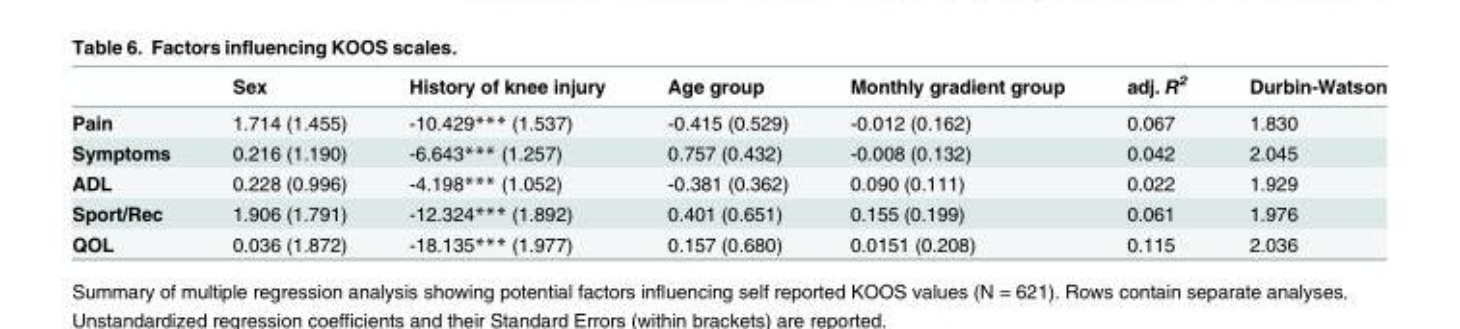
<table><thead><tr><td></td><td>Sex</td><td>History of knee injury</td><td>Age group</td><td>Monthly gradient group</td><td>adj. R<sup>2</sup></td><td>Durbin-Watson</td></tr></thead><tbody><tr><td>Pain</td><td>1.714 (1.455)</td><td>-10.429*** (1.537)</td><td>-0.415 (0.529)</td><td>-0.012 (0.162)</td><td>0.067</td><td>1.830</td></tr><tr><td>Symptoms</td><td>0.216 (1.190)</td><td>-6.643*** (1.257)</td><td>0.757 (0.432)</td><td>-0.008 (0.132)</td><td>0.042</td><td>2.045</td></tr><tr><td>ADL</td><td>0.228 (0.996)</td><td>-4.198*** (1.052)</td><td>-0.381 (0.362)</td><td>0.090 (0.111)</td><td>0.022</td><td>1.929</td></tr><tr><td>Sport/Rec</td><td>1.906 (1.791)</td><td>-12.324*** (1.892)</td><td>0.401 (0.651)</td><td>0.155 (0.199)</td><td>0.061</td><td>1.976</td></tr><tr><td>QOL</td><td>0.036 (1.872)</td><td>-18.135*** (1.977)</td><td>0.157 (0.680)</td><td>0.0151 (0.208)</td><td>0.115</td><td>2.036</td></tr></tbody></table>